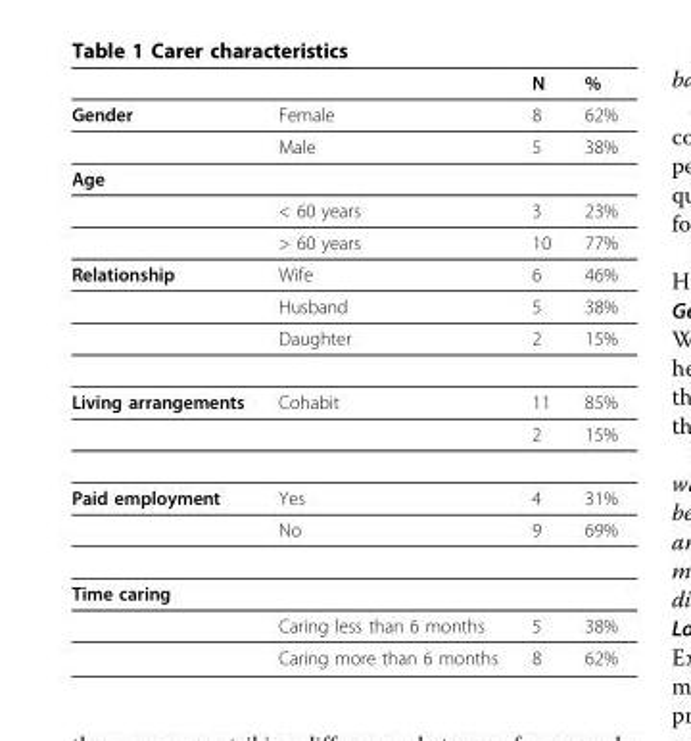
<table><thead><tr><td></td><td></td><td>N</td><td>%</td></tr></thead><tbody><tr><td rowspan="2">Gender</td><td>Female</td><td>8</td><td>62%</td></tr><tr><td>Male</td><td>5</td><td>38%</td></tr><tr><td colspan="4">Age</td></tr><tr><td></td><td>&lt; 60 years</td><td>3</td><td>23%</td></tr><tr><td></td><td>&gt; 60 years</td><td>10</td><td>77%</td></tr><tr><td rowspan="3">Relationship</td><td>Wife</td><td>6</td><td>46%</td></tr><tr><td>Husband</td><td>5</td><td>38%</td></tr><tr><td>Daughter</td><td>2</td><td>15%</td></tr><tr><td rowspan="2">Living arrangements</td><td>Cohabit</td><td>11</td><td>85%</td></tr><tr><td></td><td>2</td><td>15%</td></tr><tr><td rowspan="2">Paid employment</td><td>Yes</td><td>4</td><td>31%</td></tr><tr><td>No</td><td>9</td><td>69%</td></tr><tr><td colspan="4">Time caring</td></tr><tr><td></td><td>Caring less than 6 months</td><td>5</td><td>38%</td></tr><tr><td></td><td>Caring more than 6 months</td><td>8</td><td>62%</td></tr></tbody></table>